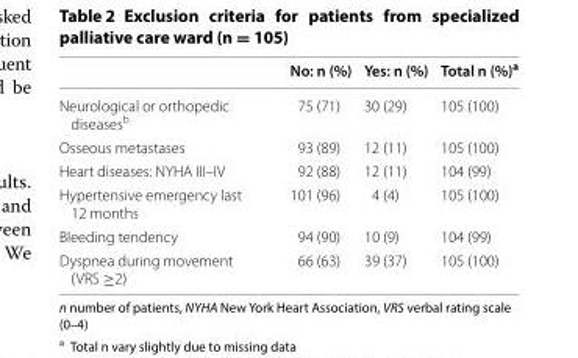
<table><thead><tr><td></td><td>No: n (%)</td><td>Yes: n (%)</td><td>Total n (%)<sup>a</sup></td></tr></thead><tbody><tr><td>Neurological or orthopedic diseases<sup>b</sup></td><td>75 (71)</td><td>30 (29)</td><td>105 (100)</td></tr><tr><td>Osseous metastases</td><td>93 (89)</td><td>12 (11)</td><td>105 (100)</td></tr><tr><td>Heart diseases: NYHA III–IV</td><td>92 (88)</td><td>12 (11)</td><td>104 (99)</td></tr><tr><td>Hypertensive emergency last 12 months</td><td>101 (96)</td><td>4 (4)</td><td>105 (100)</td></tr><tr><td>Bleeding tendency</td><td>94 (90)</td><td>10 (9)</td><td>104 (99)</td></tr><tr><td>Dyspnea during movement (VRS ≥2)</td><td>66 (63)</td><td>39 (37)</td><td>105 (100)</td></tr></tbody></table>